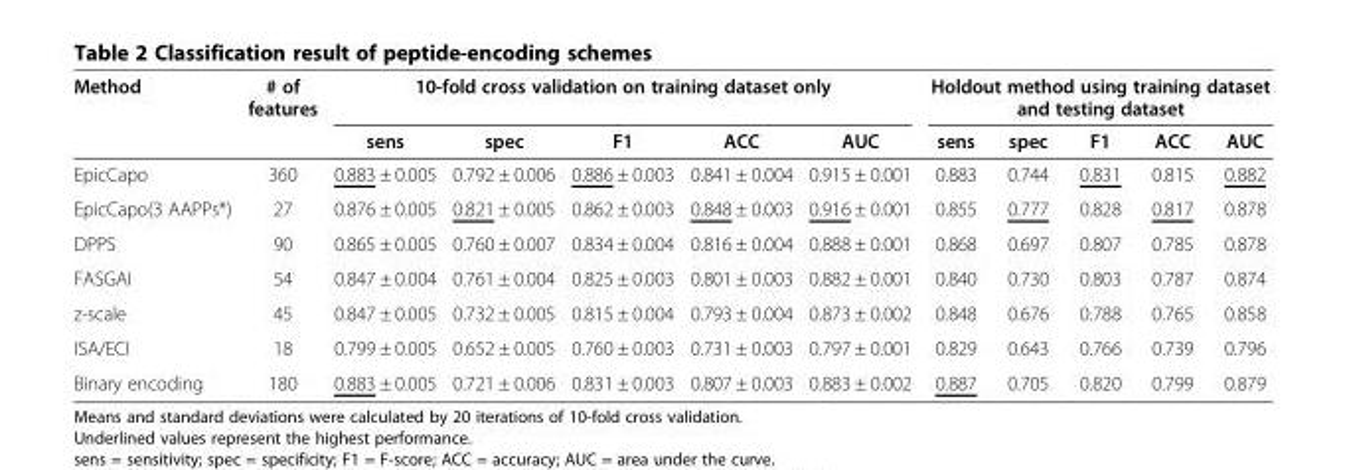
<table><thead><tr><td rowspan="2">Method</td><td rowspan="2"># of features</td><td colspan="5">10-fold cross validation on training dataset only</td><td colspan="5">Holdout method using training dataset and testing dataset</td></tr><tr><td>sens</td><td>spec</td><td>F1</td><td>ACC</td><td>AUC</td><td>sens</td><td>spec</td><td>F1</td><td>ACC</td><td>AUC</td></tr></thead><tbody><tr><td>EpicCapo</td><td>360</td><td>0.883 ± 0.005</td><td>0.792 ± 0.006</td><td>0.886 ± 0.003</td><td>0.841 ± 0.004</td><td>0.915 ± 0.001</td><td>0.883</td><td>0.744</td><td>0.831</td><td>0.815</td><td>0.882</td></tr><tr><td>EpicCapo(3 AAPPs*)</td><td>27</td><td>0.876 ± 0.005</td><td>0.821 ± 0.005</td><td>0.862 ± 0.003</td><td>0.848 ± 0.003</td><td>0.916 ± 0.001</td><td>0.855</td><td>0.777</td><td>0.828</td><td>0.817</td><td>0.878</td></tr><tr><td>DPPS</td><td>90</td><td>0.865 ± 0.005</td><td>0.760 ± 0.007</td><td>0.834 ± 0.004</td><td>0.816 ± 0.004</td><td>0.888 ± 0.001</td><td>0.868</td><td>0.697</td><td>0.807</td><td>0.785</td><td>0.878</td></tr><tr><td>FASGAI</td><td>54</td><td>0.847 ± 0.004</td><td>0.761 ± 0.004</td><td>0.825 ± 0.003</td><td>0.801 ± 0.003</td><td>0.882 ± 0.001</td><td>0.840</td><td>0.730</td><td>0.803</td><td>0.787</td><td>0.874</td></tr><tr><td>z-scale</td><td>45</td><td>0.847 ± 0.005</td><td>0.732 ± 0.005</td><td>0.815 ± 0.004</td><td>0.793 ± 0.004</td><td>0.873 ± 0.002</td><td>0.848</td><td>0.676</td><td>0.788</td><td>0.765</td><td>0.858</td></tr><tr><td>ISA/ECI</td><td>18</td><td>0.799 ± 0.005</td><td>0.652 ± 0.005</td><td>0.760 ± 0.003</td><td>0.731 ± 0.003</td><td>0.797 ± 0.001</td><td>0.829</td><td>0.643</td><td>0.766</td><td>0.739</td><td>0.796</td></tr><tr><td>Binary encoding</td><td>180</td><td>0.883 ± 0.005</td><td>0.721 ± 0.006</td><td>0.831 ± 0.003</td><td>0.807 ± 0.003</td><td>0.883 ± 0.002</td><td>0.887</td><td>0.705</td><td>0.820</td><td>0.799</td><td>0.879</td></tr></tbody></table>